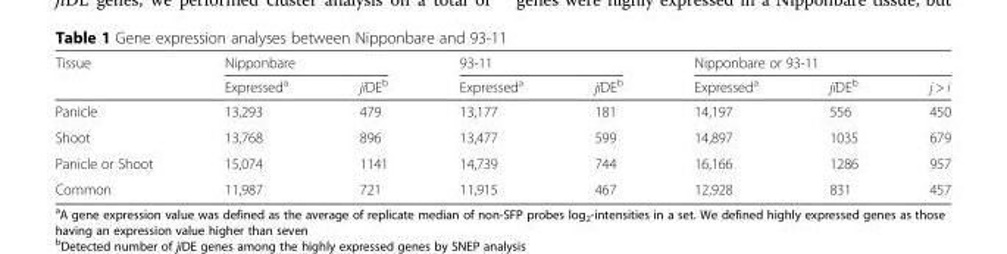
<table><thead><tr><td rowspan="2">Tissue</td><td colspan="2">Nipponbare</td><td colspan="2">93-11</td><td colspan="3">Nipponbare or 93-11</td></tr><tr><td>Expressed<sup>a</sup></td><td>jiDE<sup>b</sup></td><td>Expressed<sup>a</sup></td><td>jiDE<sup>b</sup></td><td>Expressed<sup>a</sup></td><td>jiDE<sup>b</sup></td><td>j &gt; i</td></tr></thead><tbody><tr><td>Panicle</td><td>13,293</td><td>479</td><td>13,177</td><td>181</td><td>14,197</td><td>556</td><td>450</td></tr><tr><td>Shoot</td><td>13,768</td><td>896</td><td>13,477</td><td>599</td><td>14,897</td><td>1035</td><td>679</td></tr><tr><td>Panicle or Shoot</td><td>15,074</td><td>1141</td><td>14,739</td><td>744</td><td>16,166</td><td>1286</td><td>957</td></tr><tr><td>Common</td><td>11,987</td><td>721</td><td>11,915</td><td>467</td><td>12,928</td><td>831</td><td>457</td></tr></tbody></table>